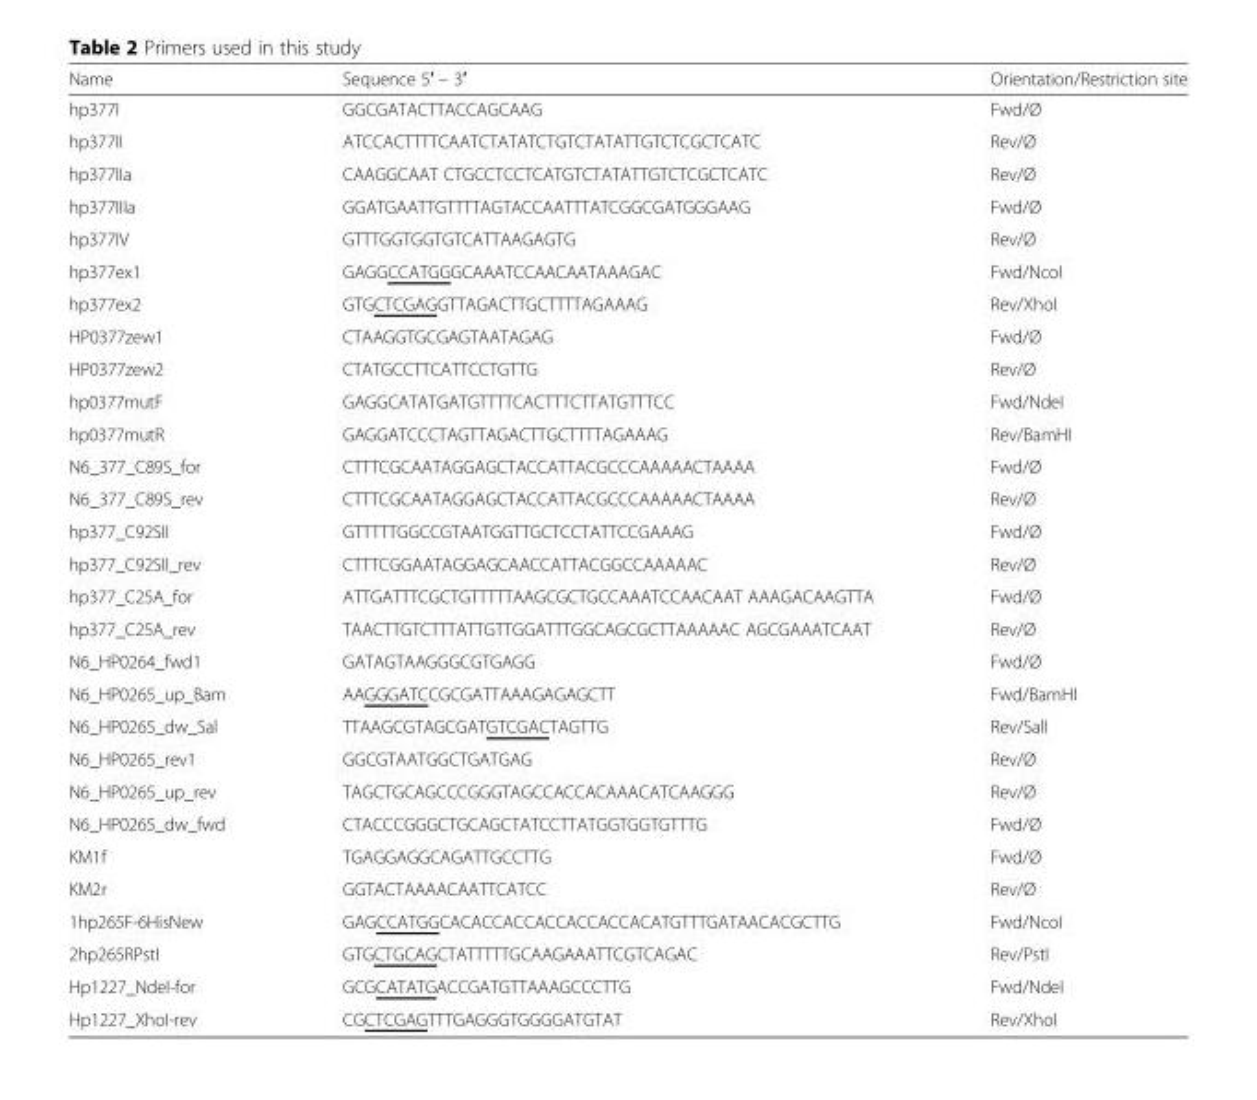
<table><thead><tr><td>Name</td><td>Sequence 5′ – 3′</td><td>Orientation/Restriction site</td></tr></thead><tbody><tr><td>hp377I</td><td>GGCGATACTTACCAGCAAG</td><td>Fwd/Ø</td></tr><tr><td>hp377II</td><td>ATCCACTTTTCAATCTATATCTGTCTATATTGTCTCGCTCATC</td><td>Rev/Ø</td></tr><tr><td>hp377IIa</td><td>CAAGGCAAT CTGCCTCCTCATGTCTATATTGTCTCGCTCATC</td><td>Rev/Ø</td></tr><tr><td>hp377IIIa</td><td>GGATGAATTGTTTTAGTACCAATTTATCGGCGATGGGAAG</td><td>Fwd/Ø</td></tr><tr><td>hp377IV</td><td>GTTTGGTGGTGTCATTAAGAGTG</td><td>Rev/Ø</td></tr><tr><td>hp377ex1</td><td>GAGGCCATGGGCAAATCCAACAATAAAGAC</td><td>Fwd/NcoI</td></tr><tr><td>hp377ex2</td><td>GTGCTCGAGGTTAGACTTGCTTTTAGAAAG</td><td>Rev/XhoI</td></tr><tr><td>HP0377zew1</td><td>CTAAGGTGCGAGTAATAGAG</td><td>Fwd/Ø</td></tr><tr><td>HP0377zew2</td><td>CTATGCCTTCATTCCTGTTG</td><td>Rev/Ø</td></tr><tr><td>hp0377mutF</td><td>GAGGCATATGATGTTTTCACTTTCTTATGTTTCC</td><td>Fwd/NdeI</td></tr><tr><td>hp0377mutR</td><td>GAGGATCCCTAGTTAGACTTGCTTTTAGAAAG</td><td>Rev/BamHI</td></tr><tr><td>N6_377_C89S_for</td><td>CTTTCGCAATAGGAGCTACCATTACGCCCAAAAACTAAAA</td><td>Fwd/Ø</td></tr><tr><td>N6_377_C89S_rev</td><td>CTTTCGCAATAGGAGCTACCATTACGCCCAAAAACTAAAA</td><td>Rev/Ø</td></tr><tr><td>hp377_C92SII</td><td>GTTTTTGGCCGTAATGGTTGCTCCTATTCCGAAAG</td><td>Fwd/Ø</td></tr><tr><td>hp377_C92SII_rev</td><td>CTTTCGGAATAGGAGCAACCATTACGGCCAAAAAC</td><td>Rev/Ø</td></tr><tr><td>hp377_C25A_for</td><td>ATTGATTTCGCTGTTTTTAAGCGCTGCCAAATCCAACAAT AAAGACAAGTTA</td><td>Fwd/Ø</td></tr><tr><td>hp377_C25A_rev</td><td>TAACTTGTCTTTATTGTTGGATTTGGCAGCGCTTAAAAAC AGCGAAATCAAT</td><td>Rev/Ø</td></tr><tr><td>N6_HP0264_fwd1</td><td>GATAGTAAGGGCGTGAGG</td><td>Fwd/Ø</td></tr><tr><td>N6_HP0265_up_Bam</td><td>AAGGGATCCGCGATTAAAGAGAGCTT</td><td>Fwd/BamHI</td></tr><tr><td>N6_HP0265_dw_Sal</td><td>TTAAGCGTAGCGATGTCGACTAGTTG</td><td>Rev/SalI</td></tr><tr><td>N6_HP0265_rev1</td><td>GGCGTAATGGCTGATGAG</td><td>Rev/Ø</td></tr><tr><td>N6_HP0265_up_rev</td><td>TAGCTGCAGCCCGGGTAGCCACCACAAACATCAAGGG</td><td>Rev/Ø</td></tr><tr><td>N6_HP0265_dw_fwd</td><td>CTACCCGGGCTGCAGCTATCCTTATGGTGGTGTTTG</td><td>Fwd/Ø</td></tr><tr><td>KM1f</td><td>TGAGGAGGCAGATTGCCTTG</td><td>Fwd/Ø</td></tr><tr><td>KM2r</td><td>GGTACTAAAACAATTCATCC</td><td>Rev/Ø</td></tr><tr><td>1hp265F-6HisNew</td><td>GAGCCATGGCACACCACCACCACCACCACATGTTTGATAACACGCTTG</td><td>Fwd/NcoI</td></tr><tr><td>2hp265RPstI</td><td>GTGCTGCAGCTATTTTTGCAAGAAATTCGTCAGAC</td><td>Rev/PstI</td></tr><tr><td>Hp1227_NdeI-for</td><td>GCGCATATGACCGATGTTAAAGCCCTTG</td><td>Fwd/NdeI</td></tr><tr><td>Hp1227_XhoI-rev</td><td>CGCTCGAGTTTGAGGGTGGGGATGTAT</td><td>Rev/XhoI</td></tr></tbody></table>